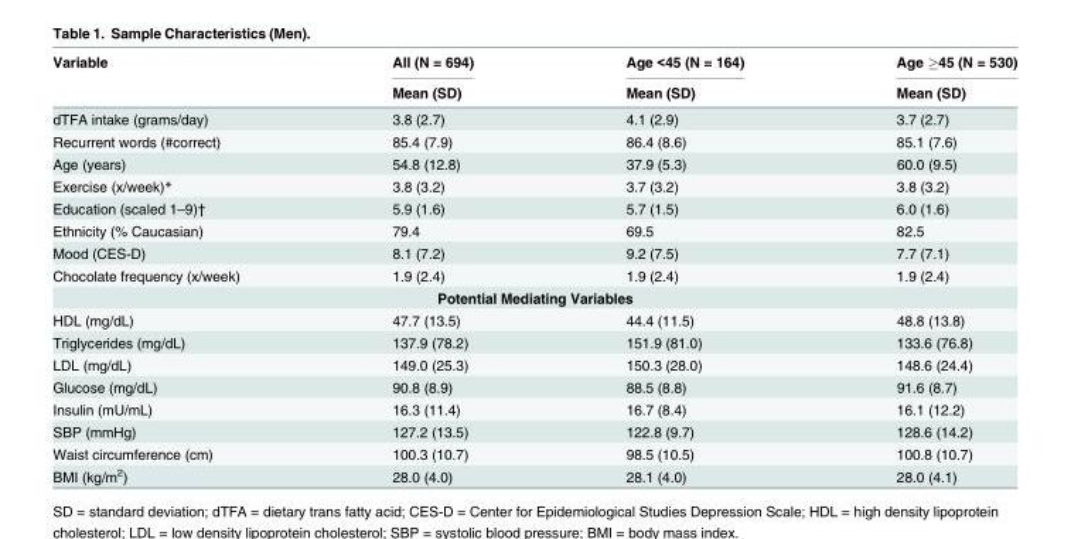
<table><thead><tr><td rowspan="2">Variable</td><td rowspan="2">All (N = 694) Mean (SD)</td><td rowspan="2">Age &lt;45 (N = 164) Mean (SD)</td><td rowspan="2">Age ≥45 (N = 530) Mean (SD)</td></tr><tr></tr></thead><tbody><tr><td>dTFA intake (grams/day)</td><td>3.8 (2.7)</td><td>4.1 (2.9)</td><td>3.7 (2.7)</td></tr><tr><td>Recurrent words (#correct)</td><td>85.4 (7.9)</td><td>86.4 (8.6)</td><td>85.1 (7.6)</td></tr><tr><td>Age (years)</td><td>54.8 (12.8)</td><td>37.9 (5.3)</td><td>60.0 (9.5)</td></tr><tr><td>Exercise (x/week)*</td><td>3.8 (3.2)</td><td>3.7 (3.2)</td><td>3.8 (3.2)</td></tr><tr><td>Education (scaled 1–9)†</td><td>5.9 (1.6)</td><td>5.7 (1.5)</td><td>6.0 (1.6)</td></tr><tr><td>Ethnicity (% Caucasian)</td><td>79.4</td><td>69.5</td><td>82.5</td></tr><tr><td>Mood (CES-D)</td><td>8.1 (7.2)</td><td>9.2 (7.5)</td><td>7.7 (7.1)</td></tr><tr><td>Chocolate frequency (x/week)</td><td>1.9 (2.4)</td><td>1.9 (2.4)</td><td>1.9 (2.4)</td></tr><tr><td colspan="4">Potential Mediating Variables</td></tr><tr><td>HDL (mg/dL)</td><td>47.7 (13.5)</td><td>44.4 (11.5)</td><td>48.8 (13.8)</td></tr><tr><td>Triglycerides (mg/dL)</td><td>137.9 (78.2)</td><td>151.9 (81.0)</td><td>133.6 (76.8)</td></tr><tr><td>LDL (mg/dL)</td><td>149.0 (25.3)</td><td>150.3 (28.0)</td><td>148.6 (24.4)</td></tr><tr><td>Glucose (mg/dL)</td><td>90.8 (8.9)</td><td>88.5 (8.8)</td><td>91.6 (8.7)</td></tr><tr><td>Insulin (mU/mL)</td><td>16.3 (11.4)</td><td>16.7 (8.4)</td><td>16.1 (12.2)</td></tr><tr><td>SBP (mmHg)</td><td>127.2 (13.5)</td><td>122.8 (9.7)</td><td>128.6 (14.2)</td></tr><tr><td>Waist circumference (cm)</td><td>100.3 (10.7)</td><td>98.5 (10.5)</td><td>100.8 (10.7)</td></tr><tr><td>BMI (kg/m<sup>2</sup>)</td><td>28.0 (4.0)</td><td>28.1 (4.0)</td><td>28.0 (4.1)</td></tr></tbody></table>